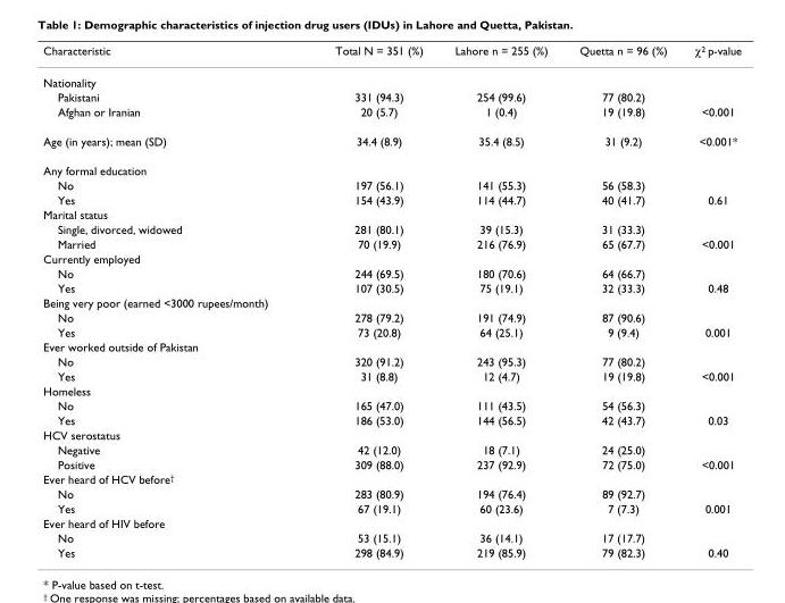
<table><thead><tr><td>Characteristic</td><td>Total N = 351 (%)</td><td>Lahore n = 255 (%)</td><td>Quetta n = 96 (%)</td><td>χ<sup>2</sup> p-value</td></tr></thead><tbody><tr><td colspan="5">Nationality</td></tr><tr><td>Pakistani</td><td>331 (94.3)</td><td>254 (99.6)</td><td>77 (80.2)</td><td></td></tr><tr><td>Afghan or Iranian</td><td>20 (5.7)</td><td>1 (0.4)</td><td>19 (19.8)</td><td>&lt;0.001</td></tr><tr><td>Age (in years); mean (SD)</td><td>34.4 (8.9)</td><td>35.4 (8.5)</td><td>31 (9.2)</td><td>&lt;0.001*</td></tr><tr><td colspan="5">Any formal education</td></tr><tr><td>No</td><td>197 (56.1)</td><td>141 (55.3)</td><td>56 (58.3)</td><td></td></tr><tr><td>Yes</td><td>154 (43.9)</td><td>114 (44.7)</td><td>40 (41.7)</td><td>0.61</td></tr><tr><td colspan="5">Marital status</td></tr><tr><td>Single, divorced, widowed</td><td>281 (80.1)</td><td>39 (15.3)</td><td>31 (33.3)</td><td></td></tr><tr><td>Married</td><td>70 (19.9)</td><td>216 (76.9)</td><td>65 (67.7)</td><td>&lt;0.001</td></tr><tr><td colspan="5">Currently employed</td></tr><tr><td>No</td><td>244 (69.5)</td><td>180 (70.6)</td><td>64 (66.7)</td><td></td></tr><tr><td>Yes</td><td>107 (30.5)</td><td>75 (19.1)</td><td>32 (33.3)</td><td>0.48</td></tr><tr><td colspan="5">Being very poor (earned &lt;3000 rupees/month)</td></tr><tr><td>No</td><td>278 (79.2)</td><td>191 (74.9)</td><td>87 (90.6)</td><td></td></tr><tr><td>Yes</td><td>73 (20.8)</td><td>64 (25.1)</td><td>9 (9.4)</td><td>0.001</td></tr><tr><td colspan="5">Ever worked outside of Pakistan</td></tr><tr><td>No</td><td>320 (91.2)</td><td>243 (95.3)</td><td>77 (80.2)</td><td></td></tr><tr><td>Yes</td><td>31 (8.8)</td><td>12 (4.7)</td><td>19 (19.8)</td><td>&lt;0.001</td></tr><tr><td colspan="5">Homeless</td></tr><tr><td>No</td><td>165 (47.0)</td><td>111 (43.5)</td><td>54 (56.3)</td><td></td></tr><tr><td>Yes</td><td>186 (53.0)</td><td>144 (56.5)</td><td>42 (43.7)</td><td>0.03</td></tr><tr><td colspan="5">HCV serostatus</td></tr><tr><td>Negative</td><td>42 (12.0)</td><td>18 (7.1)</td><td>24 (25.0)</td><td></td></tr><tr><td>Positive</td><td>309 (88.0)</td><td>237 (92.9)</td><td>72 (75.0)</td><td>&lt;0.001</td></tr><tr><td colspan="5">Ever heard of HCV before<sup>†</sup></td></tr><tr><td>No</td><td>283 (80.9)</td><td>194 (76.4)</td><td>89 (92.7)</td><td></td></tr><tr><td>Yes</td><td>67 (19.1)</td><td>60 (23.6)</td><td>7 (7.3)</td><td>0.001</td></tr><tr><td colspan="5">Ever heard of HIV before</td></tr><tr><td>No</td><td>53 (15.1)</td><td>36 (14.1)</td><td>17 (17.7)</td><td></td></tr><tr><td>Yes</td><td>298 (84.9)</td><td>219 (85.9)</td><td>79 (82.3)</td><td>0.40</td></tr></tbody></table>